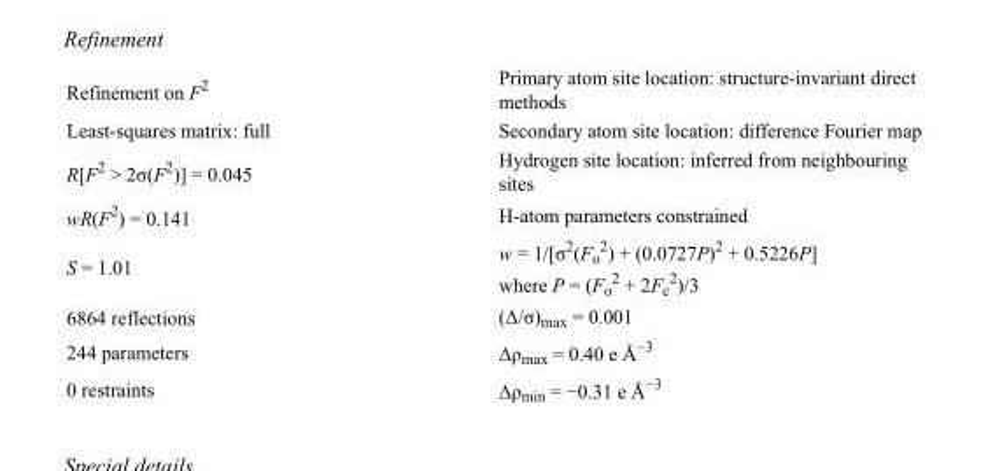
<table><tbody><tr><td>Refinement on F<sup>2</sup></td><td>Primary atom site location: structure-invariant direct methods</td></tr><tr><td>Least-squares matrix: full</td><td>Secondary atom site location: difference Fourier map</td></tr><tr><td>R[F<sup>2</sup> &gt; 2σ(F<sup>2</sup>)] = 0.045</td><td>Hydrogen site location: inferred from neighbouring sites</td></tr><tr><td>wR(F<sup>2</sup>) = 0.141</td><td>H-atom parameters constrained</td></tr><tr><td>S = 1.01</td><td>w = 1/[σ<sup>2</sup>(F<sub>o</sub> <sup>2</sup>) + (0.0727P)<sup>2</sup> + 0.5226P] where P = (F<sub>o</sub> <sup>2</sup> + 2F<sub>c</sub> <sup>2</sup>)/3</td></tr><tr><td>6864 reflections</td><td>(Δ/σ)<sub>max</sub> = 0.001</td></tr><tr><td>244 parameters</td><td>Δρ<sub>max</sub> = 0.40 e Å<sup>−3</sup></td></tr><tr><td>0 restraints</td><td>Δρ<sub>min</sub> = −0.31 e Å<sup>−3</sup></td></tr></tbody></table>